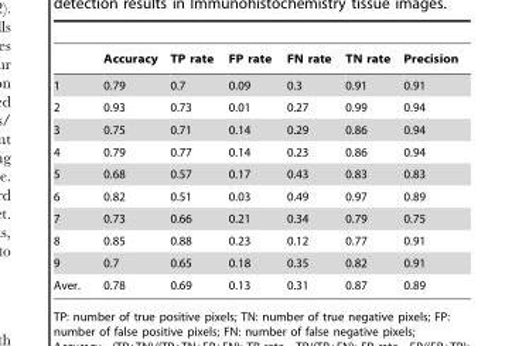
<table><thead><tr><td></td><td>Accuracy</td><td>TP rate</td><td>FP rate</td><td>FN rate</td><td>TN rate</td><td>Precision</td></tr></thead><tbody><tr><td>1</td><td>0.79</td><td>0.7</td><td>0.09</td><td>0.3</td><td>0.91</td><td>0.91</td></tr><tr><td>2</td><td>0.93</td><td>0.73</td><td>0.01</td><td>0.27</td><td>0.99</td><td>0.94</td></tr><tr><td>3</td><td>0.75</td><td>0.71</td><td>0.14</td><td>0.29</td><td>0.86</td><td>0.94</td></tr><tr><td>4</td><td>0.79</td><td>0.77</td><td>0.14</td><td>0.23</td><td>0.86</td><td>0.94</td></tr><tr><td>5</td><td>0.68</td><td>0.57</td><td>0.17</td><td>0.43</td><td>0.83</td><td>0.83</td></tr><tr><td>6</td><td>0.82</td><td>0.51</td><td>0.03</td><td>0.49</td><td>0.97</td><td>0.89</td></tr><tr><td>7</td><td>0.73</td><td>0.66</td><td>0.21</td><td>0.34</td><td>0.79</td><td>0.75</td></tr><tr><td>8</td><td>0.85</td><td>0.88</td><td>0.23</td><td>0.12</td><td>0.77</td><td>0.91</td></tr><tr><td>9</td><td>0.7</td><td>0.65</td><td>0.18</td><td>0.35</td><td>0.82</td><td>0.91</td></tr><tr><td>Aver.</td><td>0.78</td><td>0.69</td><td>0.13</td><td>0.31</td><td>0.87</td><td>0.89</td></tr></tbody></table>